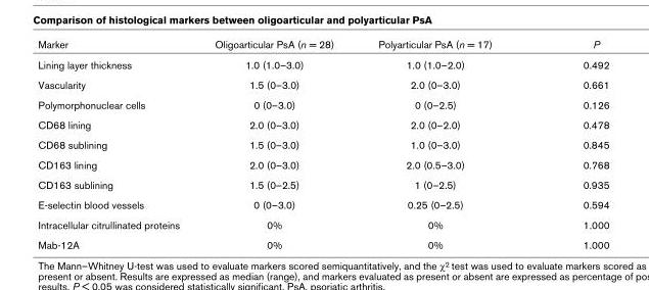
<table><thead><tr><td>Marker</td><td>Oligoarticular PsA (n = 28)</td><td>Polyarticular PsA (n = 17)</td><td>P</td></tr></thead><tbody><tr><td>Lining layer thickness</td><td>1.0 (1.0–3.0)</td><td>1.0 (1.0–2.0)</td><td>0.492</td></tr><tr><td>Vascularity</td><td>1.5 (0–3.0)</td><td>2.0 (0–3.0)</td><td>0.661</td></tr><tr><td>Polymorphonuclear cells</td><td>0 (0–3.0)</td><td>0 (0–2.5)</td><td>0.126</td></tr><tr><td>CD68 lining</td><td>2.0 (0–3.0)</td><td>2.0 (0–2.0)</td><td>0.478</td></tr><tr><td>CD68 sublining</td><td>1.5 (0–3.0)</td><td>1.0 (0–3.0)</td><td>0.845</td></tr><tr><td>CD163 lining</td><td>2.0 (0–3.0)</td><td>2.0 (0.5–3.0)</td><td>0.768</td></tr><tr><td>CD163 sublining</td><td>1.5 (0–2.5)</td><td>1 (0–2.5)</td><td>0.935</td></tr><tr><td>E-selectin blood vessels</td><td>0 (0–3.0)</td><td>0.25 (0–2.5)</td><td>0.594</td></tr><tr><td>Intracellular citrullinated proteins</td><td>0%</td><td>0%</td><td>1.000</td></tr><tr><td>Mab-12A</td><td>0%</td><td>0%</td><td>1.000</td></tr></tbody></table>